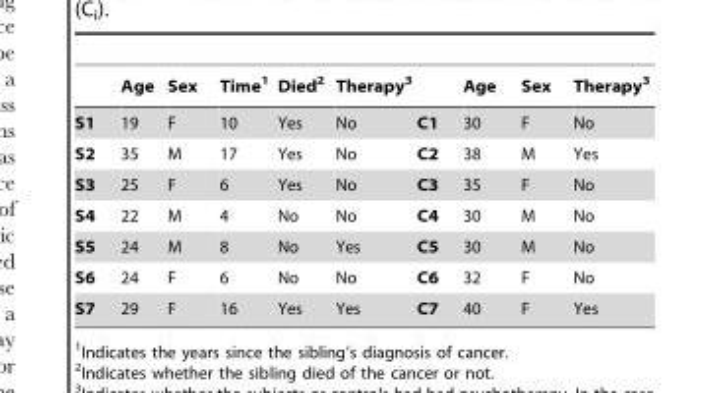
<table><thead><tr><td></td><td>Age</td><td>Sex</td><td>Time<sup>1</sup></td><td>Died<sup>2</sup></td><td>Therapy<sup>3</sup></td><td></td><td>Age</td><td>Sex</td><td>Therapy<sup>3</sup></td></tr></thead><tbody><tr><td>S1</td><td>19</td><td>F</td><td>10</td><td>Yes</td><td>No</td><td>C1</td><td>30</td><td>F</td><td>No</td></tr><tr><td>S2</td><td>35</td><td>M</td><td>17</td><td>Yes</td><td>No</td><td>C2</td><td>38</td><td>M</td><td>Yes</td></tr><tr><td>S3</td><td>25</td><td>F</td><td>6</td><td>Yes</td><td>No</td><td>C3</td><td>35</td><td>F</td><td>No</td></tr><tr><td>S4</td><td>22</td><td>M</td><td>4</td><td>No</td><td>No</td><td>C4</td><td>30</td><td>M</td><td>No</td></tr><tr><td>S5</td><td>24</td><td>M</td><td>8</td><td>No</td><td>Yes</td><td>C5</td><td>30</td><td>M</td><td>No</td></tr><tr><td>S6</td><td>24</td><td>F</td><td>6</td><td>No</td><td>No</td><td>C6</td><td>32</td><td>F</td><td>No</td></tr><tr><td>S7</td><td>29</td><td>F</td><td>16</td><td>Yes</td><td>Yes</td><td>C7</td><td>40</td><td>F</td><td>Yes</td></tr></tbody></table>